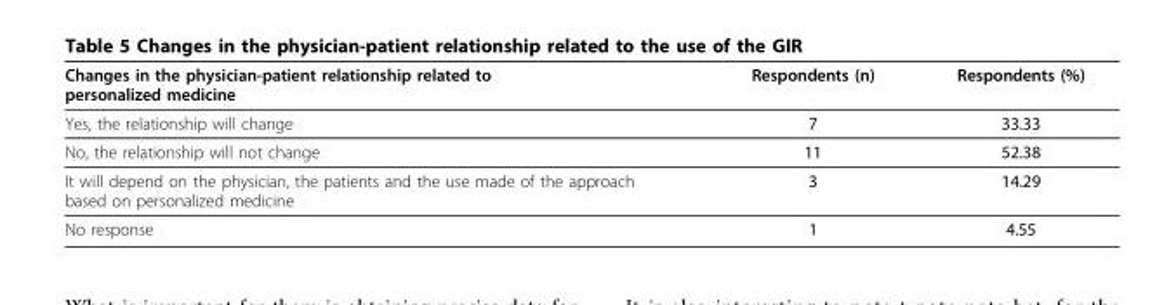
<table><thead><tr><td>Changes in the physician-patient relationship related to personalized medicine</td><td>Respondents (n)</td><td>Respondents (%)</td></tr></thead><tbody><tr><td>Yes, the relationship will change</td><td>7</td><td>33.33</td></tr><tr><td>No, the relationship will not change</td><td>11</td><td>52.38</td></tr><tr><td>It will depend on the physician, the patients and the use made of the approach based on personalized medicine</td><td>3</td><td>14.29</td></tr><tr><td>No response</td><td>1</td><td>4.55</td></tr></tbody></table>